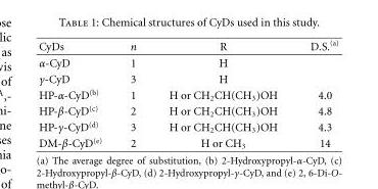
<table><thead><tr><td>CyDs</td><td>n</td><td>R</td><td>D.S.<sup>(a)</sup></td></tr></thead><tbody><tr><td>α-CyD</td><td>1</td><td>H</td><td></td></tr><tr><td>γ-CyD</td><td>3</td><td>H</td><td></td></tr><tr><td>HP-α-CyD<sup>(b)</sup></td><td>1</td><td>H or CH<sub>2</sub>CH(CH<sub>3</sub>)OH</td><td>4.0</td></tr><tr><td>HP-β-CyD<sup>(c)</sup></td><td>2</td><td>H or CH<sub>2</sub>CH(CH<sub>3</sub>)OH</td><td>4.8</td></tr><tr><td>HP-γ-CyD<sup>(d)</sup></td><td>3</td><td>H or CH<sub>2</sub>CH(CH<sub>3</sub>)OH</td><td>4.3</td></tr><tr><td>DM-β-CyD<sup>(e)</sup></td><td>2</td><td>H or CH<sub>3</sub></td><td>14</td></tr></tbody></table>